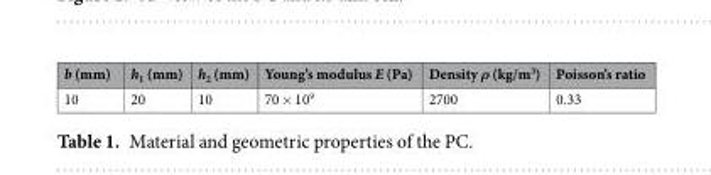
<table><thead><tr><td>b (mm)</td><td>h<sub>1</sub> (mm)</td><td>h<sub>2</sub> (mm)</td><td>Young’s modulus E (Pa)</td><td>Density ρ (kg/m<sup>3</sup>)</td><td>Poisson’s ratio</td></tr></thead><tbody><tr><td>10</td><td>20</td><td>10</td><td>70 × 10<sup>9</sup></td><td>2700</td><td>0.33</td></tr></tbody></table>